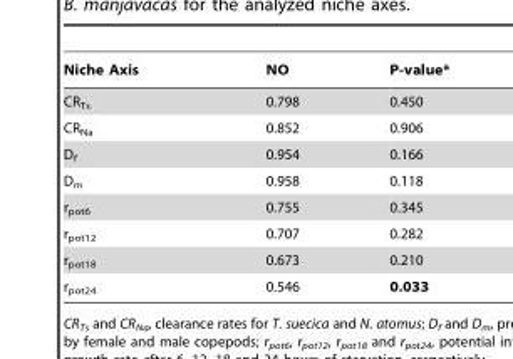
<table><thead><tr><td>Niche Axis</td><td>NO</td><td>P-value*</td></tr></thead><tbody><tr><td>CR<sub>Ts</sub></td><td>0.798</td><td>0.450</td></tr><tr><td>CR<sub>Na</sub></td><td>0.852</td><td>0.906</td></tr><tr><td>D<sub>f</sub></td><td>0.954</td><td>0.166</td></tr><tr><td>D<sub>m</sub></td><td>0.958</td><td>0.118</td></tr><tr><td>r<sub>pot6</sub></td><td>0.755</td><td>0.345</td></tr><tr><td>r<sub>pot12</sub></td><td>0.707</td><td>0.282</td></tr><tr><td>r<sub>pot18</sub></td><td>0.673</td><td>0.210</td></tr><tr><td>r<sub>pot24</sub></td><td>0.546</td><td>0.033</td></tr></tbody></table>